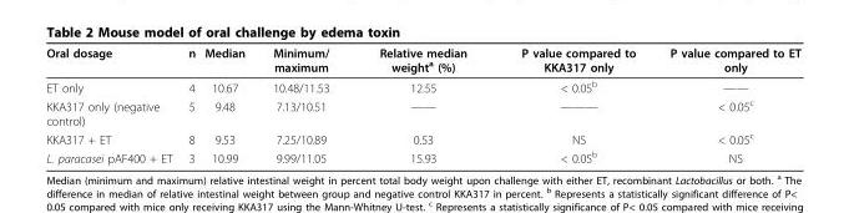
<table><thead><tr><td>Oral dosage</td><td>n</td><td>Median</td><td>Minimum/ maximum</td><td>Relative median weight<sup>a</sup> (%)</td><td>P value compared to KKA317 only</td><td>P value compared to ET only</td></tr></thead><tbody><tr><td>ET only</td><td>4</td><td>10.67</td><td>10.48/11.53</td><td>12.55</td><td>&lt; 0.05<sup>b</sup></td><td>——</td></tr><tr><td>KKA317 only (negative control)</td><td>5</td><td>9.48</td><td>7.13/10.51</td><td>——</td><td>———</td><td>&lt; 0.05<sup>c</sup></td></tr><tr><td>KKA317 + ET</td><td>8</td><td>9.53</td><td>7.25/10.89</td><td>0.53</td><td>NS</td><td>&lt; 0.05<sup>c</sup></td></tr><tr><td>L. paracasei pAF400 + ET</td><td>3</td><td>10.99</td><td>9.99/11.05</td><td>15.93</td><td>&lt; 0.05<sup>b</sup></td><td>NS</td></tr></tbody></table>